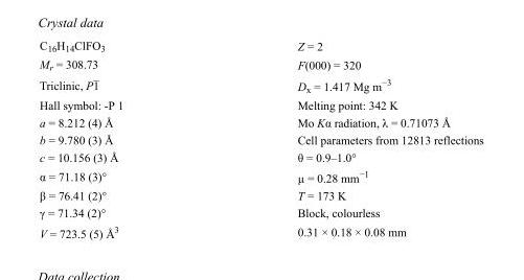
<table><tbody><tr><td>C<sub>16</sub>H<sub>14</sub>ClFO<sub>3</sub></td><td>Z = 2</td></tr><tr><td>M<sub>r</sub> = 308.73</td><td>F(000) = 320</td></tr><tr><td>Triclinic, P1</td><td>D<sub>x</sub> = 1.417 Mg m<sup>−3</sup></td></tr><tr><td>Hall symbol: -P 1</td><td>Melting point: 342 K</td></tr><tr><td>a = 8.212 (4) Å</td><td>Mo Kα radiation, λ = 0.71073 Å</td></tr><tr><td>b = 9.780 (3) Å</td><td>Cell parameters from 12813 reflections</td></tr><tr><td>c = 10.156 (3) Å</td><td>θ = 0.9–1.0°</td></tr><tr><td>α = 71.18 (3)°</td><td>µ = 0.28 mm<sup>−1</sup></td></tr><tr><td>β = 76.41 (2)°</td><td>T = 173 K</td></tr><tr><td>γ = 71.34 (2)°</td><td>Block, colourless</td></tr><tr><td>V = 723.5 (5) Å<sup>3</sup></td><td>0.31 × 0.18 × 0.08 mm</td></tr></tbody></table>